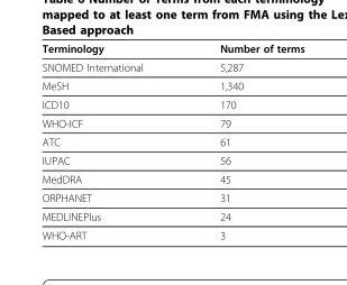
<table><thead><tr><td>Terminology</td><td>Number of terms</td></tr></thead><tbody><tr><td>SNOMED International</td><td>5,287</td></tr><tr><td>MeSH</td><td>1,340</td></tr><tr><td>ICD10</td><td>170</td></tr><tr><td>WHO-ICF</td><td>79</td></tr><tr><td>ATC</td><td>61</td></tr><tr><td>IUPAC</td><td>56</td></tr><tr><td>MedDRA</td><td>45</td></tr><tr><td>ORPHANET</td><td>31</td></tr><tr><td>MEDLINEPlus</td><td>24</td></tr><tr><td>WHO-ART</td><td>3</td></tr></tbody></table>